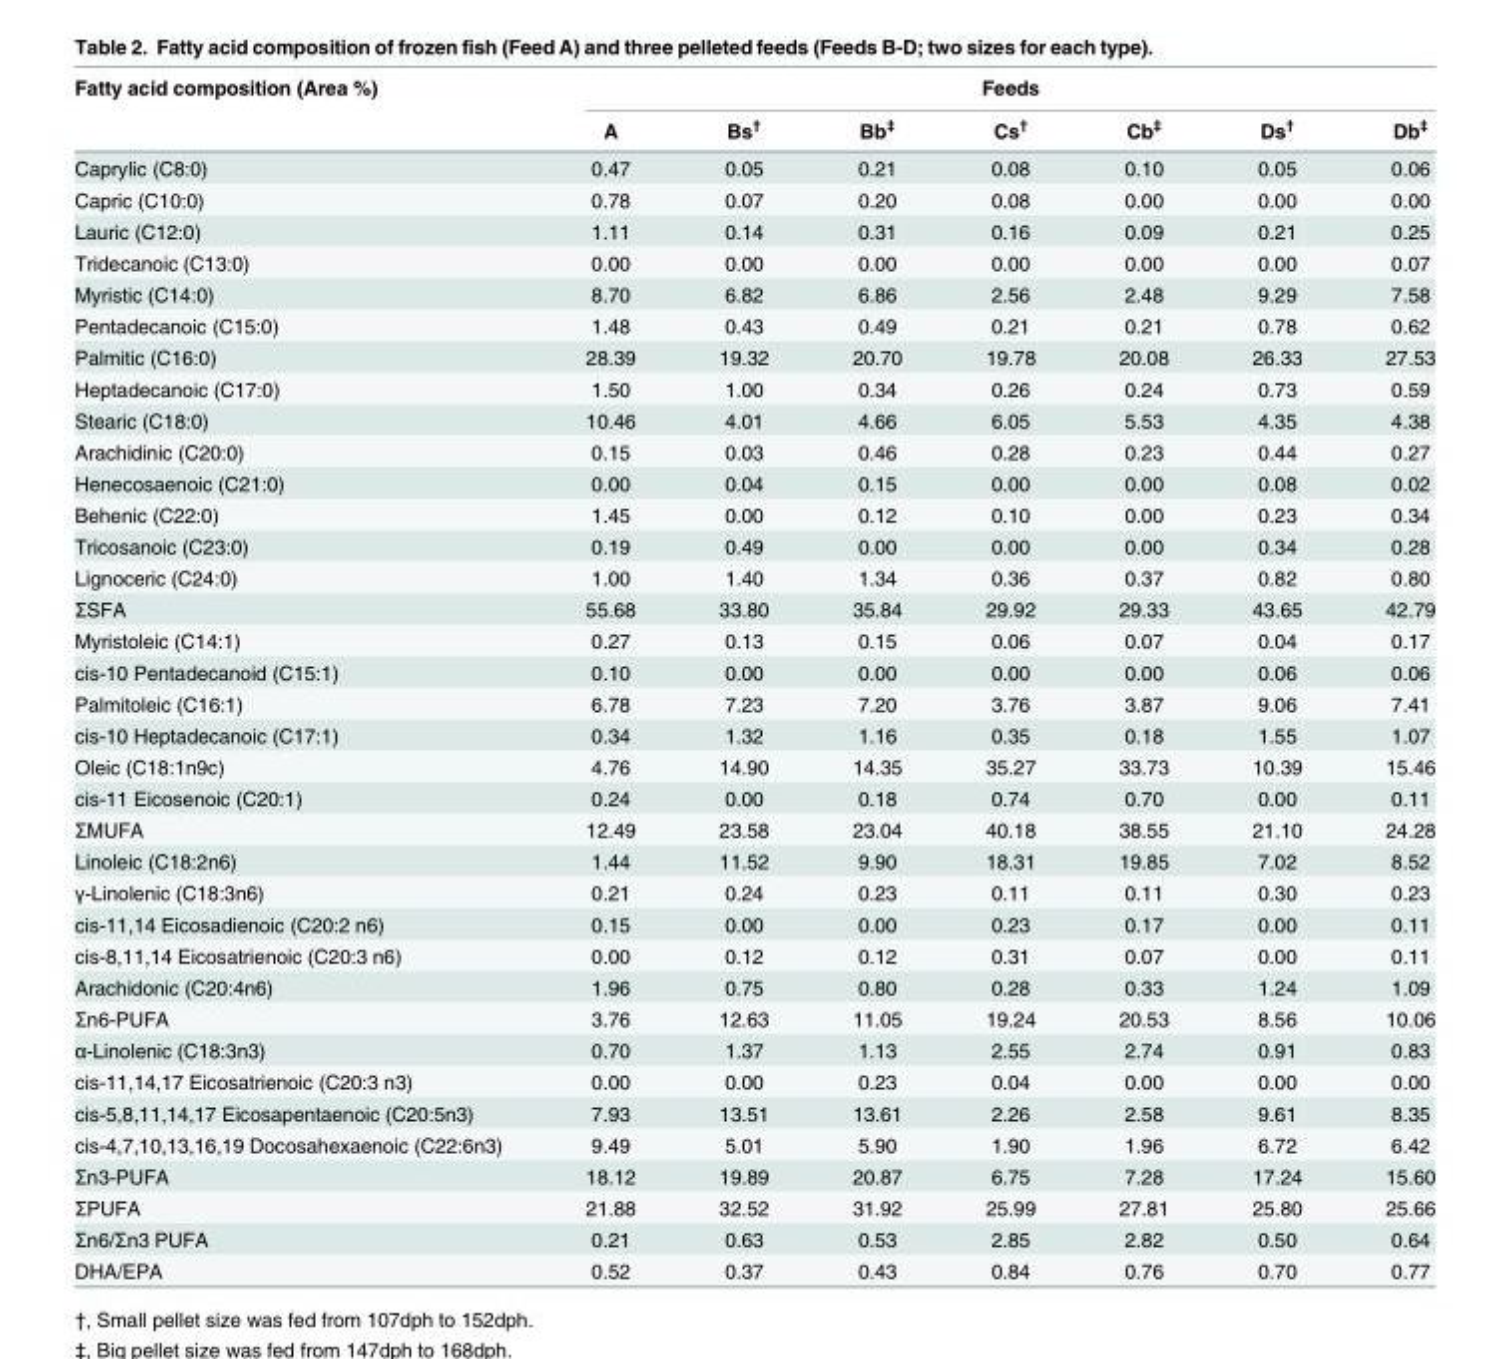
<table><thead><tr><td rowspan="2">Fatty acid composition (Area %)</td><td colspan="7">Feeds</td></tr><tr><td>A</td><td>Bs<sup>†</sup></td><td>Bb<sup>‡</sup></td><td>Cs<sup>†</sup></td><td>Cb<sup>‡</sup></td><td>Ds<sup>†</sup></td><td>Db<sup>‡</sup></td></tr></thead><tbody><tr><td>Caprylic (C8:0)</td><td>0.47</td><td>0.05</td><td>0.21</td><td>0.08</td><td>0.10</td><td>0.05</td><td>0.06</td></tr><tr><td>Capric (C10:0)</td><td>0.78</td><td>0.07</td><td>0.20</td><td>0.08</td><td>0.00</td><td>0.00</td><td>0.00</td></tr><tr><td>Lauric (C12:0)</td><td>1.11</td><td>0.14</td><td>0.31</td><td>0.16</td><td>0.09</td><td>0.21</td><td>0.25</td></tr><tr><td>Tridecanoic (C13:0)</td><td>0.00</td><td>0.00</td><td>0.00</td><td>0.00</td><td>0.00</td><td>0.00</td><td>0.07</td></tr><tr><td>Myristic (C14:0)</td><td>8.70</td><td>6.82</td><td>6.86</td><td>2.56</td><td>2.48</td><td>9.29</td><td>7.58</td></tr><tr><td>Pentadecanoic (C15:0)</td><td>1.48</td><td>0.43</td><td>0.49</td><td>0.21</td><td>0.21</td><td>0.78</td><td>0.62</td></tr><tr><td>Palmitic (C16:0)</td><td>28.39</td><td>19.32</td><td>20.70</td><td>19.78</td><td>20.08</td><td>26.33</td><td>27.53</td></tr><tr><td>Heptadecanoic (C17:0)</td><td>1.50</td><td>1.00</td><td>0.34</td><td>0.26</td><td>0.24</td><td>0.73</td><td>0.59</td></tr><tr><td>Stearic (C18:0)</td><td>10.46</td><td>4.01</td><td>4.66</td><td>6.05</td><td>5.53</td><td>4.35</td><td>4.38</td></tr><tr><td>Arachidinic (C20:0)</td><td>0.15</td><td>0.03</td><td>0.46</td><td>0.28</td><td>0.23</td><td>0.44</td><td>0.27</td></tr><tr><td>Henecosaenoic (C21:0)</td><td>0.00</td><td>0.04</td><td>0.15</td><td>0.00</td><td>0.00</td><td>0.08</td><td>0.02</td></tr><tr><td>Behenic (C22:0)</td><td>1.45</td><td>0.00</td><td>0.12</td><td>0.10</td><td>0.00</td><td>0.23</td><td>0.34</td></tr><tr><td>Tricosanoic (C23:0)</td><td>0.19</td><td>0.49</td><td>0.00</td><td>0.00</td><td>0.00</td><td>0.34</td><td>0.28</td></tr><tr><td>Lignoceric (C24:0)</td><td>1.00</td><td>1.40</td><td>1.34</td><td>0.36</td><td>0.37</td><td>0.82</td><td>0.80</td></tr><tr><td>ΣSFA</td><td>55.68</td><td>33.80</td><td>35.84</td><td>29.92</td><td>29.33</td><td>43.65</td><td>42.79</td></tr><tr><td>Myristoleic (C14:1)</td><td>0.27</td><td>0.13</td><td>0.15</td><td>0.06</td><td>0.07</td><td>0.04</td><td>0.17</td></tr><tr><td>cis-10 Pentadecanoid (C15:1)</td><td>0.10</td><td>0.00</td><td>0.00</td><td>0.00</td><td>0.00</td><td>0.06</td><td>0.06</td></tr><tr><td>Palmitoleic (C16:1)</td><td>6.78</td><td>7.23</td><td>7.20</td><td>3.76</td><td>3.87</td><td>9.06</td><td>7.41</td></tr><tr><td>cis-10 Heptadecanoic (C17:1)</td><td>0.34</td><td>1.32</td><td>1.16</td><td>0.35</td><td>0.18</td><td>1.55</td><td>1.07</td></tr><tr><td>Oleic (C18:1n9c)</td><td>4.76</td><td>14.90</td><td>14.35</td><td>35.27</td><td>33.73</td><td>10.39</td><td>15.46</td></tr><tr><td>cis-11 Eicosenoic (C20:1)</td><td>0.24</td><td>0.00</td><td>0.18</td><td>0.74</td><td>0.70</td><td>0.00</td><td>0.11</td></tr><tr><td>ΣMUFA</td><td>12.49</td><td>23.58</td><td>23.04</td><td>40.18</td><td>38.55</td><td>21.10</td><td>24.28</td></tr><tr><td>Linoleic (C18:2n6)</td><td>1.44</td><td>11.52</td><td>9.90</td><td>18.31</td><td>19.85</td><td>7.02</td><td>8.52</td></tr><tr><td>γ-Linolenic (C18:3n6)</td><td>0.21</td><td>0.24</td><td>0.23</td><td>0.11</td><td>0.11</td><td>0.30</td><td>0.23</td></tr><tr><td>cis-11,14 Eicosadienoic (C20:2 n6)</td><td>0.15</td><td>0.00</td><td>0.00</td><td>0.23</td><td>0.17</td><td>0.00</td><td>0.11</td></tr><tr><td>cis-8,11,14 Eicosatrienoic (C20:3 n6)</td><td>0.00</td><td>0.12</td><td>0.12</td><td>0.31</td><td>0.07</td><td>0.00</td><td>0.11</td></tr><tr><td>Arachidonic (C20:4n6)</td><td>1.96</td><td>0.75</td><td>0.80</td><td>0.28</td><td>0.33</td><td>1.24</td><td>1.09</td></tr><tr><td>Σn6-PUFA</td><td>3.76</td><td>12.63</td><td>11.05</td><td>19.24</td><td>20.53</td><td>8.56</td><td>10.06</td></tr><tr><td>α-Linolenic (C18:3n3)</td><td>0.70</td><td>1.37</td><td>1.13</td><td>2.55</td><td>2.74</td><td>0.91</td><td>0.83</td></tr><tr><td>cis-11,14,17 Eicosatrienoic (C20:3 n3)</td><td>0.00</td><td>0.00</td><td>0.23</td><td>0.04</td><td>0.00</td><td>0.00</td><td>0.00</td></tr><tr><td>cis-5,8,11,14,17 Eicosapentaenoic (C20:5n3)</td><td>7.93</td><td>13.51</td><td>13.61</td><td>2.26</td><td>2.58</td><td>9.61</td><td>8.35</td></tr><tr><td>cis-4,7,10,13,16,19 Docosahexaenoic (C22:6n3)</td><td>9.49</td><td>5.01</td><td>5.90</td><td>1.90</td><td>1.96</td><td>6.72</td><td>6.42</td></tr><tr><td>Σn3-PUFA</td><td>18.12</td><td>19.89</td><td>20.87</td><td>6.75</td><td>7.28</td><td>17.24</td><td>15.60</td></tr><tr><td>ΣPUFA</td><td>21.88</td><td>32.52</td><td>31.92</td><td>25.99</td><td>27.81</td><td>25.80</td><td>25.66</td></tr><tr><td>Σn6/Σn3 PUFA</td><td>0.21</td><td>0.63</td><td>0.53</td><td>2.85</td><td>2.82</td><td>0.50</td><td>0.64</td></tr><tr><td>DHA/EPA</td><td>0.52</td><td>0.37</td><td>0.43</td><td>0.84</td><td>0.76</td><td>0.70</td><td>0.77</td></tr></tbody></table>